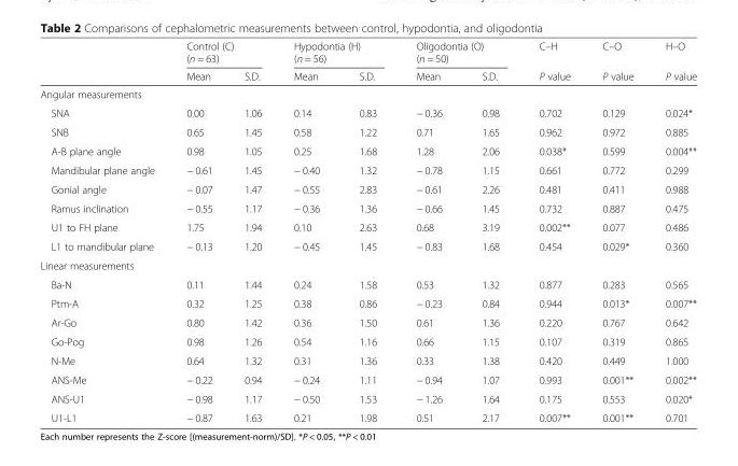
<table><thead><tr><td rowspan="2"></td><td colspan="2">Control (C) (n = 63)</td><td colspan="2">Hypodontia (H) (n = 56)</td><td colspan="2">Oligodontia (O) (n = 50)</td><td rowspan="2">C–H P value</td><td rowspan="2">C–O P value</td><td rowspan="2">H–O P value</td></tr><tr><td>Mean</td><td>S.D.</td><td>Mean</td><td>S.D.</td><td>Mean</td><td>S.D.</td></tr></thead><tbody><tr><td colspan="10">Angular measurements</td></tr><tr><td>SNA</td><td>0.00</td><td>1.06</td><td>0.14</td><td>0.83</td><td>− 0.36</td><td>0.98</td><td>0.702</td><td>0.129</td><td>0.024*</td></tr><tr><td>SNB</td><td>0.65</td><td>1.45</td><td>0.58</td><td>1.22</td><td>0.71</td><td>1.65</td><td>0.962</td><td>0.972</td><td>0.885</td></tr><tr><td>A-B plane angle</td><td>0.98</td><td>1.05</td><td>0.25</td><td>1.68</td><td>1.28</td><td>2.06</td><td>0.038*</td><td>0.599</td><td>0.004**</td></tr><tr><td>Mandibular plane angle</td><td>− 0.61</td><td>1.45</td><td>− 0.40</td><td>1.32</td><td>− 0.78</td><td>1.15</td><td>0.661</td><td>0.772</td><td>0.299</td></tr><tr><td>Gonial angle</td><td>− 0.07</td><td>1.47</td><td>− 0.55</td><td>2.83</td><td>− 0.61</td><td>2.26</td><td>0.481</td><td>0.411</td><td>0.988</td></tr><tr><td>Ramus inclination</td><td>− 0.55</td><td>1.17</td><td>− 0.36</td><td>1.36</td><td>− 0.66</td><td>1.45</td><td>0.732</td><td>0.887</td><td>0.475</td></tr><tr><td>U1 to FH plane</td><td>1.75</td><td>1.94</td><td>0.10</td><td>2.63</td><td>0.68</td><td>3.19</td><td>0.002**</td><td>0.077</td><td>0.486</td></tr><tr><td>L1 to mandibular plane</td><td>− 0.13</td><td>1.20</td><td>− 0.45</td><td>1.45</td><td>− 0.83</td><td>1.68</td><td>0.454</td><td>0.029*</td><td>0.360</td></tr><tr><td colspan="10">Linear measurements</td></tr><tr><td>Ba-N</td><td>0.11</td><td>1.44</td><td>0.24</td><td>1.58</td><td>0.53</td><td>1.32</td><td>0.877</td><td>0.283</td><td>0.565</td></tr><tr><td>Ptm-A</td><td>0.32</td><td>1.25</td><td>0.38</td><td>0.86</td><td>− 0.23</td><td>0.84</td><td>0.944</td><td>0.013*</td><td>0.007**</td></tr><tr><td>Ar-Go</td><td>0.80</td><td>1.42</td><td>0.36</td><td>1.50</td><td>0.61</td><td>1.36</td><td>0.220</td><td>0.767</td><td>0.642</td></tr><tr><td>Go-Pog</td><td>0.98</td><td>1.26</td><td>0.54</td><td>1.16</td><td>0.66</td><td>1.15</td><td>0.107</td><td>0.319</td><td>0.865</td></tr><tr><td>N-Me</td><td>0.64</td><td>1.32</td><td>0.31</td><td>1.36</td><td>0.33</td><td>1.38</td><td>0.420</td><td>0.449</td><td>1.000</td></tr><tr><td>ANS-Me</td><td>− 0.22</td><td>0.94</td><td>− 0.24</td><td>1.11</td><td>− 0.94</td><td>1.07</td><td>0.993</td><td>0.001**</td><td>0.002**</td></tr><tr><td>ANS-U1</td><td>− 0.98</td><td>1.17</td><td>− 0.50</td><td>1.53</td><td>− 1.26</td><td>1.64</td><td>0.175</td><td>0.553</td><td>0.020*</td></tr><tr><td>U1-L1</td><td>− 0.87</td><td>1.63</td><td>0.21</td><td>1.98</td><td>0.51</td><td>2.17</td><td>0.007**</td><td>0.001**</td><td>0.701</td></tr></tbody></table>